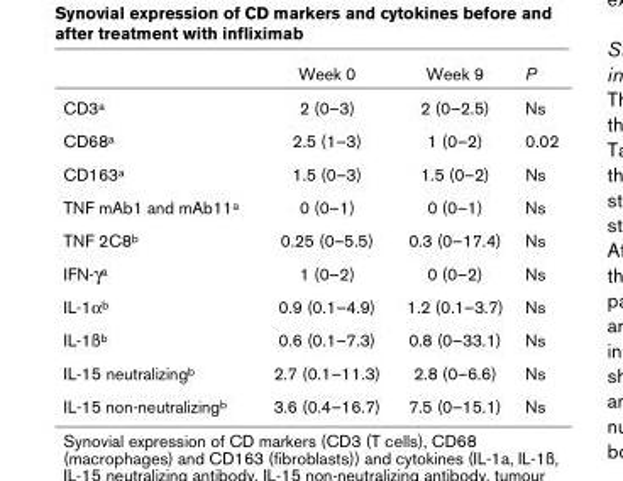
<table><thead><tr><td></td><td>Week 0</td><td>Week 9</td><td>P</td></tr></thead><tbody><tr><td>CD3a</td><td>2 (0–3)</td><td>2 (0–2.5)</td><td>Ns</td></tr><tr><td>CD68a</td><td>2.5 (1–3)</td><td>1 (0–2)</td><td>0.02</td></tr><tr><td>CD163a</td><td>1.5 (0–3)</td><td>1.5 (0–2)</td><td>Ns</td></tr><tr><td>TNF mAb1 and mAb11a</td><td>0 (0–1)</td><td>0 (0–1)</td><td>Ns</td></tr><tr><td>TNF 2C8b</td><td>0.25 (0–5.5)</td><td>0.3 (0–17.4)</td><td>Ns</td></tr><tr><td>IFN-γa</td><td>1 (0–2)</td><td>0 (0–2)</td><td>Ns</td></tr><tr><td>IL-1αb</td><td>0.9 (0.1–4.9)</td><td>1.2 (0.1–3.7)</td><td>Ns</td></tr><tr><td>IL-1ßb</td><td>0.6 (0.1–7.3)</td><td>0.8 (0–33.1)</td><td>Ns</td></tr><tr><td>IL-15 neutralizingb</td><td>2.7 (0.1–11.3)</td><td>2.8 (0–6.6)</td><td>Ns</td></tr><tr><td>IL-15 non-neutralizingb</td><td>3.6 (0.4–16.7)</td><td>7.5 (0–15.1)</td><td>Ns</td></tr></tbody></table>